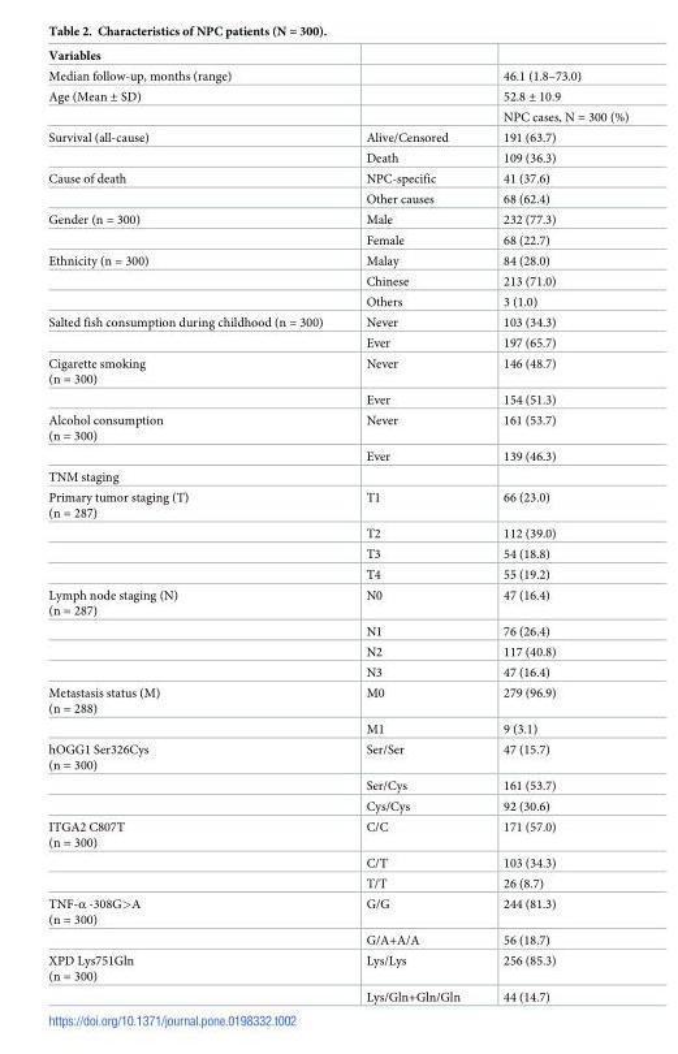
<table><thead><tr><td>Variables</td><td></td><td></td></tr></thead><tbody><tr><td>Median follow-up, months (range)</td><td></td><td>46.1 (1.8–73.0)</td></tr><tr><td rowspan="2">Age (Mean ± SD)</td><td></td><td>52.8 ± 10.9</td></tr><tr><td></td><td>NPC cases, N = 300 (%)</td></tr><tr><td rowspan="2">Survival (all-cause)</td><td>Alive/Censored</td><td>191 (63.7)</td></tr><tr><td>Death</td><td>109 (36.3)</td></tr><tr><td rowspan="2">Cause of death</td><td>NPC-specific</td><td>41 (37.6)</td></tr><tr><td>Other causes</td><td>68 (62.4)</td></tr><tr><td rowspan="2">Gender (n = 300)</td><td>Male</td><td>232 (77.3)</td></tr><tr><td>Female</td><td>68 (22.7)</td></tr><tr><td rowspan="3">Ethnicity (n = 300)</td><td>Malay</td><td>84 (28.0)</td></tr><tr><td>Chinese</td><td>213 (71.0)</td></tr><tr><td>Others</td><td>3 (1.0)</td></tr><tr><td rowspan="2">Salted fish consumption during childhood (n = 300)</td><td>Never</td><td>103 (34.3)</td></tr><tr><td>Ever</td><td>197 (65.7)</td></tr><tr><td rowspan="2">Cigarette smoking (n = 300)</td><td>Never</td><td>146 (48.7)</td></tr><tr><td>Ever</td><td>154 (51.3)</td></tr><tr><td rowspan="2">Alcohol consumption (n = 300)</td><td>Never</td><td>161 (53.7)</td></tr><tr><td>Ever</td><td>139 (46.3)</td></tr><tr><td colspan="3">TNM staging</td></tr><tr><td rowspan="4">Primary tumor staging (T) (n = 287)</td><td>T1</td><td>66 (23.0)</td></tr><tr><td>T2</td><td>112 (39.0)</td></tr><tr><td>T3</td><td>54 (18.8)</td></tr><tr><td>T4</td><td>55 (19.2)</td></tr><tr><td rowspan="4">Lymph node staging (N) (n = 287)</td><td>N0</td><td>47 (16.4)</td></tr><tr><td>N1</td><td>76 (26.4)</td></tr><tr><td>N2</td><td>117 (40.8)</td></tr><tr><td>N3</td><td>47 (16.4)</td></tr><tr><td rowspan="2">Metastasis status (M) (n = 288)</td><td>M0</td><td>279 (96.9)</td></tr><tr><td>M1</td><td>9 (3.1)</td></tr><tr><td rowspan="3">hOGG1 Ser326Cys (n = 300)</td><td>Ser/Ser</td><td>47 (15.7)</td></tr><tr><td>Ser/Cys</td><td>161 (53.7)</td></tr><tr><td>Cys/Cys</td><td>92 (30.6)</td></tr><tr><td rowspan="3">ITGA2 C807T (n = 300)</td><td>C/C</td><td>171 (57.0)</td></tr><tr><td>C/T</td><td>103 (34.3)</td></tr><tr><td>T/T</td><td>26 (8.7)</td></tr><tr><td rowspan="2">TNF-α -308G&gt;A (n = 300)</td><td>G/G</td><td>244 (81.3)</td></tr><tr><td>G/A+A/A</td><td>56 (18.7)</td></tr><tr><td rowspan="2">XPD Lys751Gln (n = 300)</td><td>Lys/Lys</td><td>256 (85.3)</td></tr><tr><td>Lys/Gln+Gln/Gln</td><td>44 (14.7)</td></tr></tbody></table>